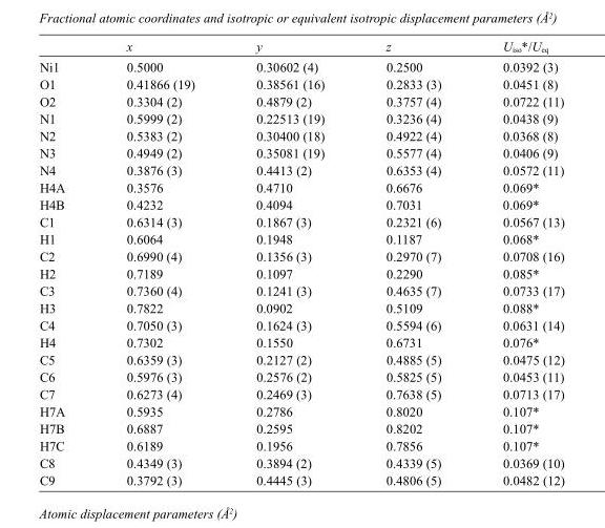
<table><thead><tr><td></td><td>x</td><td>y</td><td>z</td><td>U<sub>iso</sub>*/U<sub>eq</sub></td></tr></thead><tbody><tr><td>Ni1</td><td>0.5000</td><td>0.30602 (4)</td><td>0.2500</td><td>0.0392 (3)</td></tr><tr><td>O1</td><td>0.41866 (19)</td><td>0.38561 (16)</td><td>0.2833 (3)</td><td>0.0451 (8)</td></tr><tr><td>O2</td><td>0.3304 (2)</td><td>0.4879 (2)</td><td>0.3757 (4)</td><td>0.0722 (11)</td></tr><tr><td>N1</td><td>0.5999 (2)</td><td>0.22513 (19)</td><td>0.3236 (4)</td><td>0.0438 (9)</td></tr><tr><td>N2</td><td>0.5383 (2)</td><td>0.30400 (18)</td><td>0.4922 (4)</td><td>0.0368 (8)</td></tr><tr><td>N3</td><td>0.4949 (2)</td><td>0.35081 (19)</td><td>0.5577 (4)</td><td>0.0406 (9)</td></tr><tr><td>N4</td><td>0.3876 (3)</td><td>0.4413 (2)</td><td>0.6353 (4)</td><td>0.0572 (11)</td></tr><tr><td>H4A</td><td>0.3576</td><td>0.4710</td><td>0.6676</td><td>0.069*</td></tr><tr><td>H4B</td><td>0.4232</td><td>0.4094</td><td>0.7031</td><td>0.069*</td></tr><tr><td>C1</td><td>0.6314 (3)</td><td>0.1867 (3)</td><td>0.2321 (6)</td><td>0.0567 (13)</td></tr><tr><td>H1</td><td>0.6064</td><td>0.1948</td><td>0.1187</td><td>0.068*</td></tr><tr><td>C2</td><td>0.6990 (4)</td><td>0.1356 (3)</td><td>0.2970 (7)</td><td>0.0708 (16)</td></tr><tr><td>H2</td><td>0.7189</td><td>0.1097</td><td>0.2290</td><td>0.085*</td></tr><tr><td>C3</td><td>0.7360 (4)</td><td>0.1241 (3)</td><td>0.4635 (7)</td><td>0.0733 (17)</td></tr><tr><td>H3</td><td>0.7822</td><td>0.0902</td><td>0.5109</td><td>0.088*</td></tr><tr><td>C4</td><td>0.7050 (3)</td><td>0.1624 (3)</td><td>0.5594 (6)</td><td>0.0631 (14)</td></tr><tr><td>H4</td><td>0.7302</td><td>0.1550</td><td>0.6731</td><td>0.076*</td></tr><tr><td>C5</td><td>0.6359 (3)</td><td>0.2127 (2)</td><td>0.4885 (5)</td><td>0.0475 (12)</td></tr><tr><td>C6</td><td>0.5976 (3)</td><td>0.2576 (2)</td><td>0.5825 (5)</td><td>0.0453 (11)</td></tr><tr><td>C7</td><td>0.6273 (4)</td><td>0.2469 (3)</td><td>0.7638 (5)</td><td>0.0713 (17)</td></tr><tr><td>H7A</td><td>0.5935</td><td>0.2786</td><td>0.8020</td><td>0.107*</td></tr><tr><td>H7B</td><td>0.6887</td><td>0.2595</td><td>0.8202</td><td>0.107*</td></tr><tr><td>H7C</td><td>0.6189</td><td>0.1956</td><td>0.7856</td><td>0.107*</td></tr><tr><td>C8</td><td>0.4349 (3)</td><td>0.3894 (2)</td><td>0.4339 (5)</td><td>0.0369 (10)</td></tr><tr><td>C9</td><td>0.3792 (3)</td><td>0.4445 (3)</td><td>0.4806 (5)</td><td>0.0482 (12)</td></tr></tbody></table>